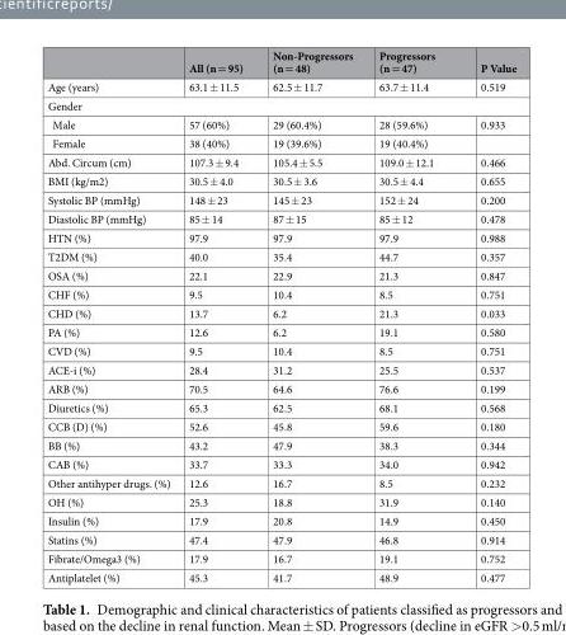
<table><thead><tr><td></td><td>All (n = 95)</td><td>Non-Progressors (n = 48)</td><td>Progressors (n = 47)</td><td>P Value</td></tr></thead><tbody><tr><td>Age (years)</td><td>63.1 ± 11.5</td><td>62.5 ± 11.7</td><td>63.7 ± 11.4</td><td>0.519</td></tr><tr><td colspan="5">Gender</td></tr><tr><td>Male</td><td>57 (60%)</td><td>29 (60.4%)</td><td>28 (59.6%)</td><td>0.933</td></tr><tr><td>Female</td><td>38 (40%)</td><td>19 (39.6%)</td><td>19 (40.4%)</td><td></td></tr><tr><td>Abd. Circum (cm)</td><td>107.3 ± 9.4</td><td>105.4 ± 5.5</td><td>109.0 ± 12.1</td><td>0.466</td></tr><tr><td>BMI (kg/m2)</td><td>30.5 ± 4.0</td><td>30.5 ± 3.6</td><td>30.5 ± 4.4</td><td>0.655</td></tr><tr><td>Systolic BP (mmHg)</td><td>148 ± 23</td><td>145 ± 23</td><td>152 ± 24</td><td>0.200</td></tr><tr><td>Diastolic BP (mmHg)</td><td>85 ± 14</td><td>87 ± 15</td><td>85 ± 12</td><td>0.478</td></tr><tr><td>HTN (%)</td><td>97.9</td><td>97.9</td><td>97.9</td><td>0.988</td></tr><tr><td>T2DM (%)</td><td>40.0</td><td>35.4</td><td>44.7</td><td>0.357</td></tr><tr><td>OSA (%)</td><td>22.1</td><td>22.9</td><td>21.3</td><td>0.847</td></tr><tr><td>CHF (%)</td><td>9.5</td><td>10.4</td><td>8.5</td><td>0.751</td></tr><tr><td>CHD (%)</td><td>13.7</td><td>6.2</td><td>21.3</td><td>0.033</td></tr><tr><td>PA (%)</td><td>12.6</td><td>6.2</td><td>19.1</td><td>0.580</td></tr><tr><td>CVD (%)</td><td>9.5</td><td>10.4</td><td>8.5</td><td>0.751</td></tr><tr><td>ACE-i (%)</td><td>28.4</td><td>31.2</td><td>25.5</td><td>0.537</td></tr><tr><td>ARB (%)</td><td>70.5</td><td>64.6</td><td>76.6</td><td>0.199</td></tr><tr><td>Diuretics (%)</td><td>65.3</td><td>62.5</td><td>68.1</td><td>0.568</td></tr><tr><td>CCB (D) (%)</td><td>52.6</td><td>45.8</td><td>59.6</td><td>0.180</td></tr><tr><td>BB (%)</td><td>43.2</td><td>47.9</td><td>38.3</td><td>0.344</td></tr><tr><td>CAB (%)</td><td>33.7</td><td>33.3</td><td>34.0</td><td>0.942</td></tr><tr><td>Other antihyper drugs. (%)</td><td>12.6</td><td>16.7</td><td>8.5</td><td>0.232</td></tr><tr><td>OH (%)</td><td>25.3</td><td>18.8</td><td>31.9</td><td>0.140</td></tr><tr><td>Insulin (%)</td><td>17.9</td><td>20.8</td><td>14.9</td><td>0.450</td></tr><tr><td>Statins (%)</td><td>47.4</td><td>47.9</td><td>46.8</td><td>0.914</td></tr><tr><td>Fibrate/Omega3 (%)</td><td>17.9</td><td>16.7</td><td>19.1</td><td>0.752</td></tr><tr><td>Antiplatelet (%)</td><td>45.3</td><td>41.7</td><td>48.9</td><td>0.477</td></tr></tbody></table>